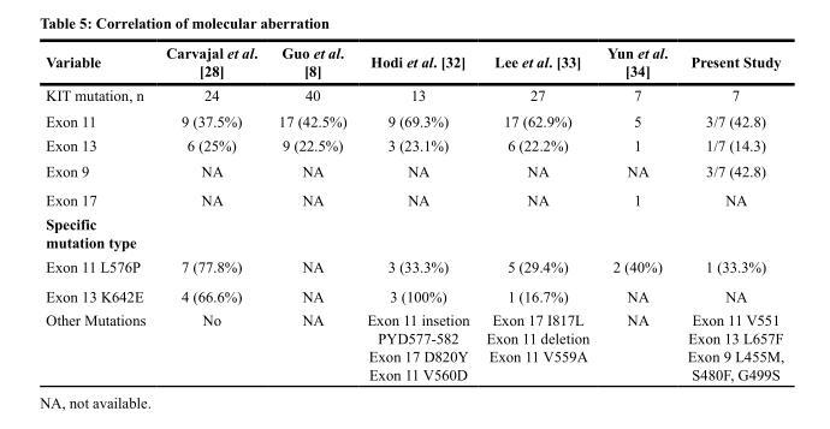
<table><thead><tr><td>Variable</td><td>Carvajal et al. [28]</td><td>Guo et al. [8]</td><td>Hodi et al. [32]</td><td>Lee et al. [33]</td><td>Yun et al. [34]</td><td>Present Study</td></tr></thead><tbody><tr><td>KIT mutation, n</td><td>24</td><td>40</td><td>13</td><td>27</td><td>7</td><td>7</td></tr><tr><td>Exon 11</td><td>9 (37.5%)</td><td>17 (42.5%)</td><td>9 (69.3%)</td><td>17 (62.9%)</td><td>5</td><td>3/7 (42.8)</td></tr><tr><td>Exon 13</td><td>6 (25%)</td><td>9 (22.5%)</td><td>3 (23.1%)</td><td>6 (22.2%)</td><td>1</td><td>1/7 (14.3)</td></tr><tr><td>Exon 9</td><td>NA</td><td>NA</td><td>NA</td><td>NA</td><td>NA</td><td>3/7 (42.8)</td></tr><tr><td>Exon 17</td><td>NA</td><td>NA</td><td>NA</td><td>NA</td><td>1</td><td>NA</td></tr><tr><td colspan="7">Specific mutation type</td></tr><tr><td>Exon 11 L576P</td><td>7 (77.8%)</td><td>NA</td><td>3 (33.3%)</td><td>5 (29.4%)</td><td>2 (40%)</td><td>1 (33.3%)</td></tr><tr><td>Exon 13 K642E</td><td>4 (66.6%)</td><td>NA</td><td>3 (100%)</td><td>1 (16.7%)</td><td>NA</td><td>NA</td></tr><tr><td>Other Mutations</td><td>No</td><td>NA</td><td>Exon 11 insetion PYD577-582 Exon 17 D820Y Exon 11 V560D</td><td>Exon 17 I817L Exon 11 deletion Exon 11 V559A</td><td>NA</td><td>Exon 11 V551 Exon 13 L657F Exon 9 L455M, S480F, G499S</td></tr></tbody></table>